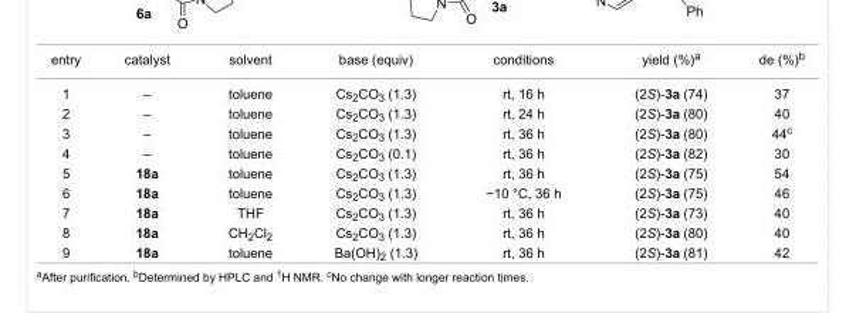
<table><tbody><tr><td>entry</td><td>catalyst</td><td>solvent</td><td>base (equiv)</td><td>conditions</td><td>yield (%)<sup>a</sup></td><td>de (%)<sup>b</sup></td></tr><tr><td>1</td><td>–</td><td>toluene</td><td>Cs<sub>2</sub>CO<sub>3</sub> (1.3)</td><td>rt, 16 h</td><td>(2S)-3a (74)</td><td>37</td></tr><tr><td>2</td><td>–</td><td>toluene</td><td>Cs<sub>2</sub>CO<sub>3</sub> (1.3)</td><td>rt, 24 h</td><td>(2S)-3a (80)</td><td>40</td></tr><tr><td>3</td><td>–</td><td>toluene</td><td>Cs<sub>2</sub>CO<sub>3</sub> (1.3)</td><td>rt, 36 h</td><td>(2S)-3a (80)</td><td>44<sup>c</sup></td></tr><tr><td>4</td><td>–</td><td>toluene</td><td>Cs<sub>2</sub>CO<sub>3</sub> (0.1)</td><td>rt, 36 h</td><td>(2S)-3a (82)</td><td>30</td></tr><tr><td>5</td><td>18a</td><td>toluene</td><td>Cs<sub>2</sub>CO<sub>3</sub> (1.3)</td><td>rt, 36 h</td><td>(2S)-3a (75)</td><td>54</td></tr><tr><td>6</td><td>18a</td><td>toluene</td><td>Cs<sub>2</sub>CO<sub>3</sub> (1.3)</td><td>−10 °C, 36 h</td><td>(2S)-3a (75)</td><td>46</td></tr><tr><td>7</td><td>18a</td><td>THF</td><td>Cs<sub>2</sub>CO<sub>3</sub> (1.3)</td><td>rt, 36 h</td><td>(2S)-3a (73)</td><td>40</td></tr><tr><td>8</td><td>18a</td><td>CH<sub>2</sub>Cl<sub>2</sub></td><td>Cs<sub>2</sub>CO<sub>3</sub> (1.3)</td><td>rt, 36 h</td><td>(2S)-3a (80)</td><td>40</td></tr><tr><td>9</td><td>18a</td><td>toluene</td><td>Ba(OH)<sub>2</sub> (1.3)</td><td>rt, 36 h</td><td>(2S)-3a (81)</td><td>42</td></tr></tbody></table>